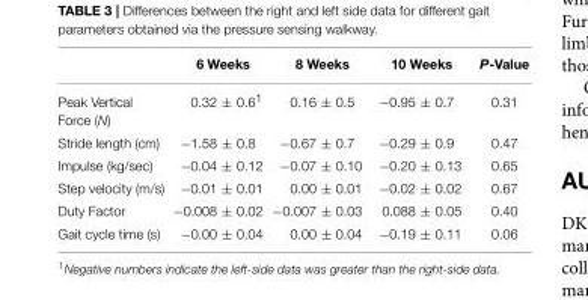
<table><thead><tr><td></td><td>6 Weeks</td><td>8 Weeks</td><td>10 Weeks</td><td>P-Value</td></tr></thead><tbody><tr><td>Peak Vertical Force (N)</td><td>0.32 ± 0.6<sup>1</sup></td><td>0.16 ± 0.5</td><td>−0.95 ± 0.7</td><td>0.31</td></tr><tr><td>Stride length (cm)</td><td>−1.58 ± 0.8</td><td>−0.67 ± 0.7</td><td>−0.29 ± 0.9</td><td>0.47</td></tr><tr><td>Impulse (kg/sec)</td><td>−0.04 ± 0.12</td><td>−0.07 ± 0.10</td><td>−0.20 ± 0.13</td><td>0.65</td></tr><tr><td>Step velocity (m/s)</td><td>−0.01 ± 0.01</td><td>0.00 ± 0.01</td><td>−0.02 ± 0.02</td><td>0.67</td></tr><tr><td>Duty Factor</td><td>−0.008 ± 0.02</td><td>−0.007 ± 0.03</td><td>0.088 ± 0.05</td><td>0.40</td></tr><tr><td>Gait cycle time (s)</td><td>−0.00 ± 0.04</td><td>0.00 ± 0.04</td><td>−0.19 ± 0.11</td><td>0.06</td></tr></tbody></table>